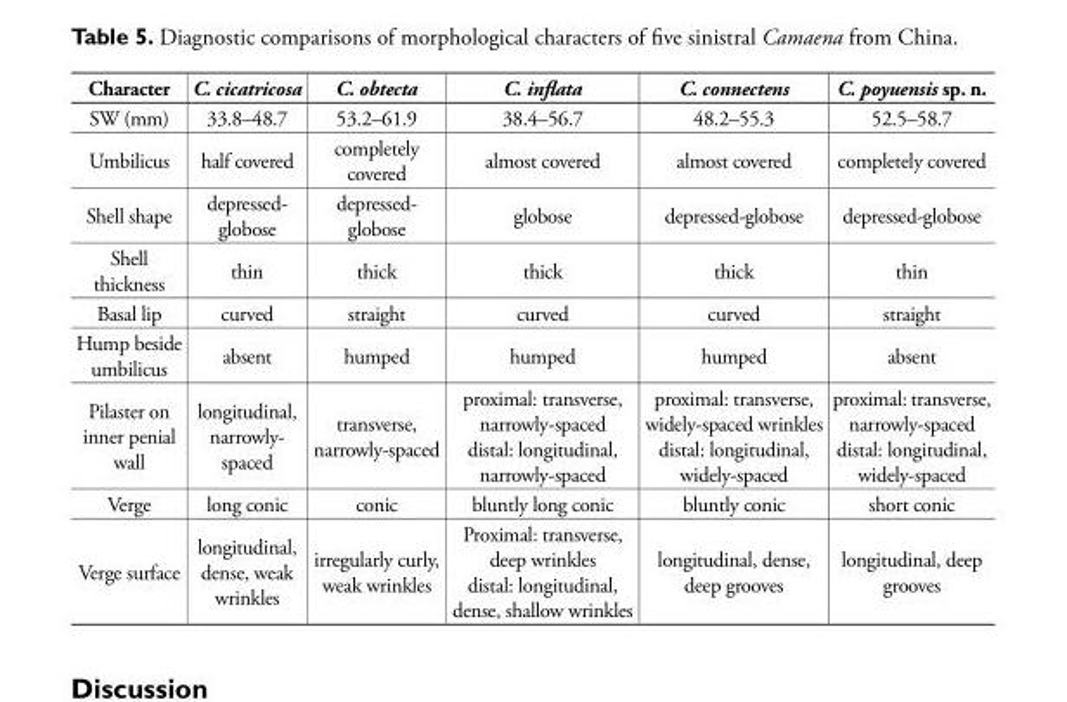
<table><thead><tr><td>Character</td><td>C. cicatricosa</td><td>C. obtecta</td><td>C. inflata</td><td>C. connectens</td><td>C. poyuensis sp. n.</td></tr></thead><tbody><tr><td>SW (mm)</td><td>33.8–48.7</td><td>53.2–61.9</td><td>38.4–56.7</td><td>48.2–55.3</td><td>52.5–58.7</td></tr><tr><td>Umbilicus</td><td>half covered</td><td>completely covered</td><td>almost covered</td><td>almost covered</td><td>completely covered</td></tr><tr><td>Shell shape</td><td>depressed- globose</td><td>depressed- globose</td><td>globose</td><td>depressed-globose</td><td>depressed-globose</td></tr><tr><td>Shell thickness</td><td>thin</td><td>thick</td><td>thick</td><td>thick</td><td>thin</td></tr><tr><td>Basal lip</td><td>curved</td><td>straight</td><td>curved</td><td>curved</td><td>straight</td></tr><tr><td>Hump beside umbilicus</td><td>absent</td><td>humped</td><td>humped</td><td>humped</td><td>absent</td></tr><tr><td>Pilaster on inner penial wall</td><td>longitudinal, narrowly- spaced</td><td>transverse, narrowly-spaced</td><td>proximal: transverse, narrowly-spaced distal: longitudinal, narrowly-spaced</td><td>proximal: transverse, widely-spaced wrinkles distal: longitudinal, widely-spaced</td><td>proximal: transverse, narrowly-spaced distal: longitudinal, widely-spaced</td></tr><tr><td>Verge</td><td>long conic</td><td>conic</td><td>bluntly long conic</td><td>bluntly conic</td><td>short conic</td></tr><tr><td>Verge surface</td><td>longitudinal, dense, weak wrinkles</td><td>irregularly curly, weak wrinkles</td><td>Proximal: transverse, deep wrinkles distal: longitudinal, dense, shallow wrinkles</td><td>longitudinal, dense, deep grooves</td><td>longitudinal, deep grooves</td></tr></tbody></table>